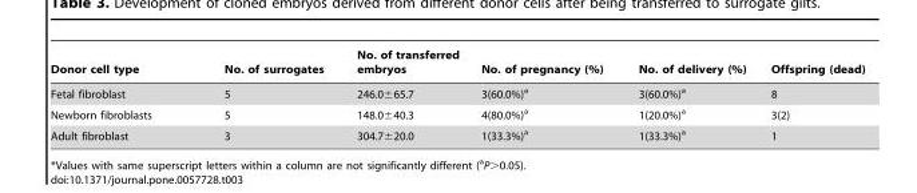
<table><thead><tr><td>Donor cell type</td><td>No. of surrogates</td><td>No. of transferred embryos</td><td>No. of pregnancy (%)</td><td>No. of delivery (%)</td><td>Offspring (dead)</td></tr></thead><tbody><tr><td>Fetal fibroblast</td><td>5</td><td>246.0±65.7</td><td>3(60.0%)<sup>a</sup></td><td>3(60.0%)<sup>a</sup></td><td>8</td></tr><tr><td>Newborn fibroblasts</td><td>5</td><td>148.0±40.3</td><td>4(80.0%)<sup>a</sup></td><td>1(20.0%)<sup>a</sup></td><td>3(2)</td></tr><tr><td>Adult fibroblast</td><td>3</td><td>304.7±20.0</td><td>1(33.3%)<sup>a</sup></td><td>1(33.3%)<sup>a</sup></td><td>1</td></tr></tbody></table>